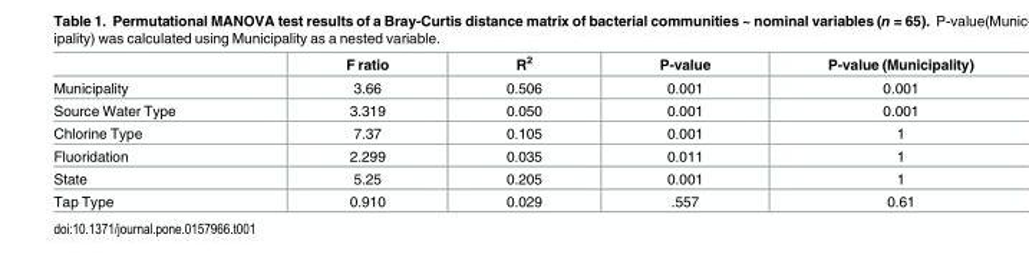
<table><thead><tr><td></td><td>F ratio</td><td>R<sup>2</sup></td><td>P-value</td><td>P-value (Municipality)</td></tr></thead><tbody><tr><td>Municipality</td><td>3.66</td><td>0.506</td><td>0.001</td><td>0.001</td></tr><tr><td>Source Water Type</td><td>3.319</td><td>0.050</td><td>0.001</td><td>0.001</td></tr><tr><td>Chlorine Type</td><td>7.37</td><td>0.105</td><td>0.001</td><td>1</td></tr><tr><td>Fluoridation</td><td>2.299</td><td>0.035</td><td>0.011</td><td>1</td></tr><tr><td>State</td><td>5.25</td><td>0.205</td><td>0.001</td><td>1</td></tr><tr><td>Tap Type</td><td>0.910</td><td>0.029</td><td>.557</td><td>0.61</td></tr></tbody></table>